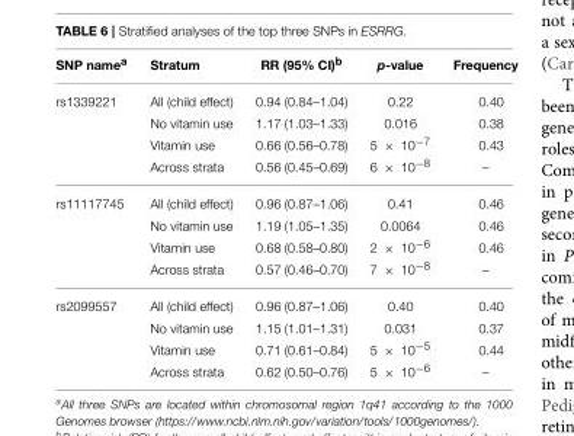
<table><thead><tr><td>SNP name<sup>a</sup></td><td>Stratum</td><td>RR (95% CI)<sup>b</sup></td><td>p-value</td><td>Frequency</td></tr></thead><tbody><tr><td rowspan="4">rs1339221</td><td>All (child effect)</td><td>0.94 (0.84–1.04)</td><td>0.22</td><td>0.40</td></tr><tr><td>No vitamin use</td><td>1.17 (1.03–1.33)</td><td>0.016</td><td>0.38</td></tr><tr><td>Vitamin use</td><td>0.66 (0.56–0.78)</td><td>5 × 10<sup>−7</sup></td><td>0.43</td></tr><tr><td>Across strata</td><td>0.56 (0.45–0.69)</td><td>6 × 10<sup>−8</sup></td><td>–</td></tr><tr><td rowspan="4">rs11117745</td><td>All (child effect)</td><td>0.96 (0.87–1.06)</td><td>0.41</td><td>0.46</td></tr><tr><td>No vitamin use</td><td>1.19 (1.05–1.35)</td><td>0.0064</td><td>0.46</td></tr><tr><td>Vitamin use</td><td>0.68 (0.58–0.80)</td><td>2 × 10<sup>−6</sup></td><td>0.46</td></tr><tr><td>Across strata</td><td>0.57 (0.46–0.70)</td><td>7 × 10<sup>−8</sup></td><td>–</td></tr><tr><td rowspan="4">rs2099557</td><td>All (child effect)</td><td>0.96 (0.87–1.06)</td><td>0.40</td><td>0.40</td></tr><tr><td>No vitamin use</td><td>1.15 (1.01–1.31)</td><td>0.031</td><td>0.37</td></tr><tr><td>Vitamin use</td><td>0.71 (0.61–0.84)</td><td>5 × 10<sup>−5</sup></td><td>0.44</td></tr><tr><td>Across strata</td><td>0.62 (0.50–0.76)</td><td>5 × 10<sup>−6</sup></td><td>–</td></tr></tbody></table>